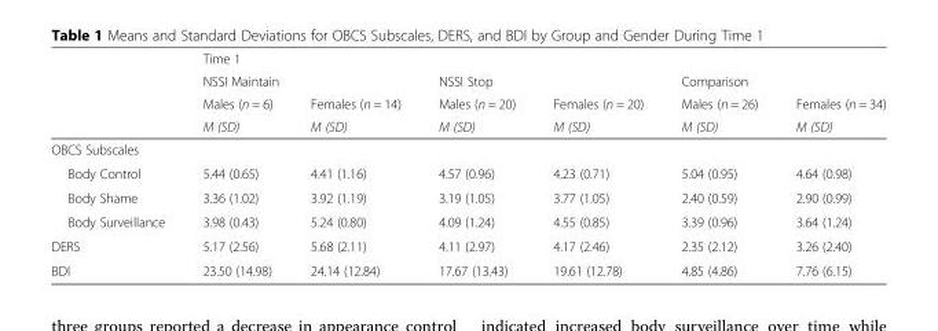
<table><thead><tr><td rowspan="4"></td><td colspan="6">Time 1</td></tr><tr><td colspan="2">NSSI Maintain</td><td colspan="2">NSSI Stop</td><td colspan="2">Comparison</td></tr><tr><td rowspan="2">Males (n = 6) M (SD)</td><td rowspan="2">Females (n = 14) M (SD)</td><td rowspan="2">Males (n = 20) M (SD)</td><td rowspan="2">Females (n = 20) M (SD)</td><td rowspan="2">Males (n = 26) M (SD)</td><td rowspan="2">Females (n = 34) M (SD)</td></tr><tr></tr></thead><tbody><tr><td colspan="7">OBCS Subscales</td></tr><tr><td>Body Control</td><td>5.44 (0.65)</td><td>4.41 (1.16)</td><td>4.57 (0.96)</td><td>4.23 (0.71)</td><td>5.04 (0.95)</td><td>4.64 (0.98)</td></tr><tr><td>Body Shame</td><td>3.36 (1.02)</td><td>3.92 (1.19)</td><td>3.19 (1.05)</td><td>3.77 (1.05)</td><td>2.40 (0.59)</td><td>2.90 (0.99)</td></tr><tr><td>Body Surveillance</td><td>3.98 (0.43)</td><td>5.24 (0.80)</td><td>4.09 (1.24)</td><td>4.55 (0.85)</td><td>3.39 (0.96)</td><td>3.64 (1.24)</td></tr><tr><td>DERS</td><td>5.17 (2.56)</td><td>5.68 (2.11)</td><td>4.11 (2.97)</td><td>4.17 (2.46)</td><td>2.35 (2.12)</td><td>3.26 (2.40)</td></tr><tr><td>BDI</td><td>23.50 (14.98)</td><td>24.14 (12.84)</td><td>17.67 (13.43)</td><td>19.61 (12.78)</td><td>4.85 (4.86)</td><td>7.76 (6.15)</td></tr></tbody></table>